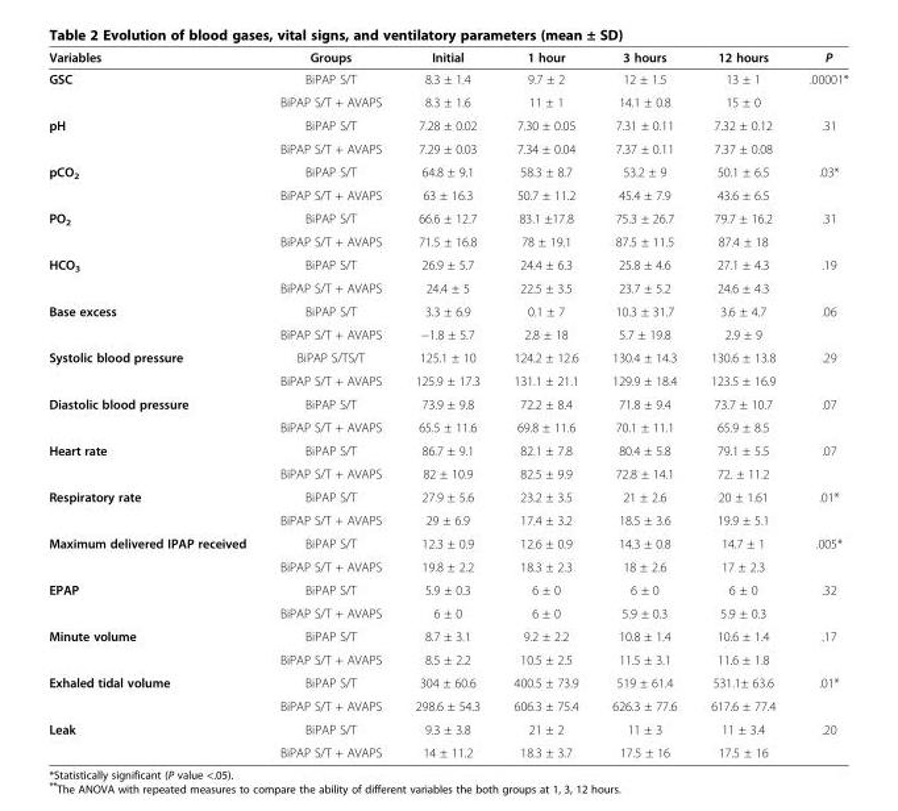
<table><thead><tr><td>Variables</td><td>Groups</td><td>Initial</td><td>1 hour</td><td>3 hours</td><td>12 hours</td><td>P</td></tr></thead><tbody><tr><td rowspan="2">GSC</td><td>BiPAP S/T</td><td>8.3 ± 1.4</td><td>9.7 ± 2</td><td>12 ± 1.5</td><td>13 ± 1</td><td rowspan="2">.00001*</td></tr><tr><td>BiPAP S/T + AVAPS</td><td>8.3 ± 1.6</td><td>11 ± 1</td><td>14.1 ± 0.8</td><td>15 ± 0</td></tr><tr><td rowspan="2">pH</td><td>BiPAP S/T</td><td>7.28 ± 0.02</td><td>7.30 ± 0.05</td><td>7.31 ± 0.11</td><td>7.32 ± 0.12</td><td rowspan="2">.31</td></tr><tr><td>BiPAP S/T + AVAPS</td><td>7.29 ± 0.03</td><td>7.34 ± 0.04</td><td>7.37 ± 0.11</td><td>7.37 ± 0.08</td></tr><tr><td rowspan="2">pCO<sub>2</sub></td><td>BiPAP S/T</td><td>64.8 ± 9.1</td><td>58.3 ± 8.7</td><td>53.2 ± 9</td><td>50.1 ± 6.5</td><td rowspan="2">.03*</td></tr><tr><td>BiPAP S/T + AVAPS</td><td>63 ± 16.3</td><td>50.7 ± 11.2</td><td>45.4 ± 7.9</td><td>43.6 ± 6.5</td></tr><tr><td rowspan="2">PO<sub>2</sub></td><td>BiPAP S/T</td><td>66.6 ± 12.7</td><td>83.1 ±17.8</td><td>75.3 ± 26.7</td><td>79.7 ± 16.2</td><td rowspan="2">.31</td></tr><tr><td>BiPAP S/T + AVAPS</td><td>71.5 ± 16.8</td><td>78 ± 19.1</td><td>87.5 ± 11.5</td><td>87.4 ± 18</td></tr><tr><td rowspan="2">HCO<sub>3</sub></td><td>BiPAP S/T</td><td>26.9 ± 5.7</td><td>24.4 ± 6.3</td><td>25.8 ± 4.6</td><td>27.1 ± 4.3</td><td rowspan="2">.19</td></tr><tr><td>BiPAP S/T + AVAPS</td><td>24.4 ± 5</td><td>22.5 ± 3.5</td><td>23.7 ± 5.2</td><td>24.6 ± 4.3</td></tr><tr><td rowspan="2">Base excess</td><td>BiPAP S/T</td><td>3.3 ± 6.9</td><td>0.1 ± 7</td><td>10.3 ± 31.7</td><td>3.6 ± 4.7</td><td rowspan="2">.06</td></tr><tr><td>BiPAP S/T + AVAPS</td><td>−1.8 ± 5.7</td><td>2.8 ± 18</td><td>5.7 ± 19.8</td><td>2.9 ± 9</td></tr><tr><td rowspan="2">Systolic blood pressure</td><td>BiPAP S/TS/T</td><td>125.1 ± 10</td><td>124.2 ± 12.6</td><td>130.4 ± 14.3</td><td>130.6 ± 13.8</td><td rowspan="2">.29</td></tr><tr><td>BiPAP S/T + AVAPS</td><td>125.9 ± 17.3</td><td>131.1 ± 21.1</td><td>129.9 ± 18.4</td><td>123.5 ± 16.9</td></tr><tr><td rowspan="2">Diastolic blood pressure</td><td>BiPAP S/T</td><td>73.9 ± 9.8</td><td>72.2 ± 8.4</td><td>71.8 ± 9.4</td><td>73.7 ± 10.7</td><td rowspan="2">.07</td></tr><tr><td>BiPAP S/T + AVAPS</td><td>65.5 ± 11.6</td><td>69.8 ± 11.6</td><td>70.1 ± 11.1</td><td>65.9 ± 8.5</td></tr><tr><td rowspan="2">Heart rate</td><td>BiPAP S/T</td><td>86.7 ± 9.1</td><td>82.1 ± 7.8</td><td>80.4 ± 5.8</td><td>79.1 ± 5.5</td><td rowspan="2">.07</td></tr><tr><td>BiPAP S/T + AVAPS</td><td>82 ± 10.9</td><td>82.5 ± 9.9</td><td>72.8 ± 14.1</td><td>72. ± 11.2</td></tr><tr><td rowspan="2">Respiratory rate</td><td>BiPAP S/T</td><td>27.9 ± 5.6</td><td>23.2 ± 3.5</td><td>21 ± 2.6</td><td>20 ± 1.61</td><td rowspan="2">.01*</td></tr><tr><td>BiPAP S/T + AVAPS</td><td>29 ± 6.9</td><td>17.4 ± 3.2</td><td>18.5 ± 3.6</td><td>19.9 ± 5.1</td></tr><tr><td rowspan="2">Maximum delivered IPAP received</td><td>BiPAP S/T</td><td>12.3 ± 0.9</td><td>12.6 ± 0.9</td><td>14.3 ± 0.8</td><td>14.7 ± 1</td><td rowspan="2">.005*</td></tr><tr><td>BiPAP S/T + AVAPS</td><td>19.8 ± 2.2</td><td>18.3 ± 2.3</td><td>18 ± 2.6</td><td>17 ± 2.3</td></tr><tr><td rowspan="2">EPAP</td><td>BiPAP S/T</td><td>5.9 ± 0.3</td><td>6 ± 0</td><td>6 ± 0</td><td>6 ± 0</td><td rowspan="2">.32</td></tr><tr><td>BiPAP S/T + AVAPS</td><td>6 ± 0</td><td>6 ± 0</td><td>5.9 ± 0.3</td><td>5.9 ± 0.3</td></tr><tr><td rowspan="2">Minute volume</td><td>BiPAP S/T</td><td>8.7 ± 3.1</td><td>9.2 ± 2.2</td><td>10.8 ± 1.4</td><td>10.6 ± 1.4</td><td rowspan="2">.17</td></tr><tr><td>BiPAP S/T + AVAPS</td><td>8.5 ± 2.2</td><td>10.5 ± 2.5</td><td>11.5 ± 3.1</td><td>11.6 ± 1.8</td></tr><tr><td rowspan="2">Exhaled tidal volume</td><td>BiPAP S/T</td><td>304 ± 60.6</td><td>400.5 ± 73.9</td><td>519 ± 61.4</td><td>531.1± 63.6</td><td rowspan="2">.01*</td></tr><tr><td>BiPAP S/T + AVAPS</td><td>298.6 ± 54.3</td><td>606.3 ± 75.4</td><td>626.3 ± 77.6</td><td>617.6 ± 77.4</td></tr><tr><td rowspan="2">Leak</td><td>BiPAP S/T</td><td>9.3 ± 3.8</td><td>21 ± 2</td><td>11 ± 3</td><td>11 ± 3.4</td><td rowspan="2">.20</td></tr><tr><td>BiPAP S/T + AVAPS</td><td>14 ± 11.2</td><td>18.3 ± 3.7</td><td>17.5 ± 16</td><td>17.5 ± 16</td></tr></tbody></table>